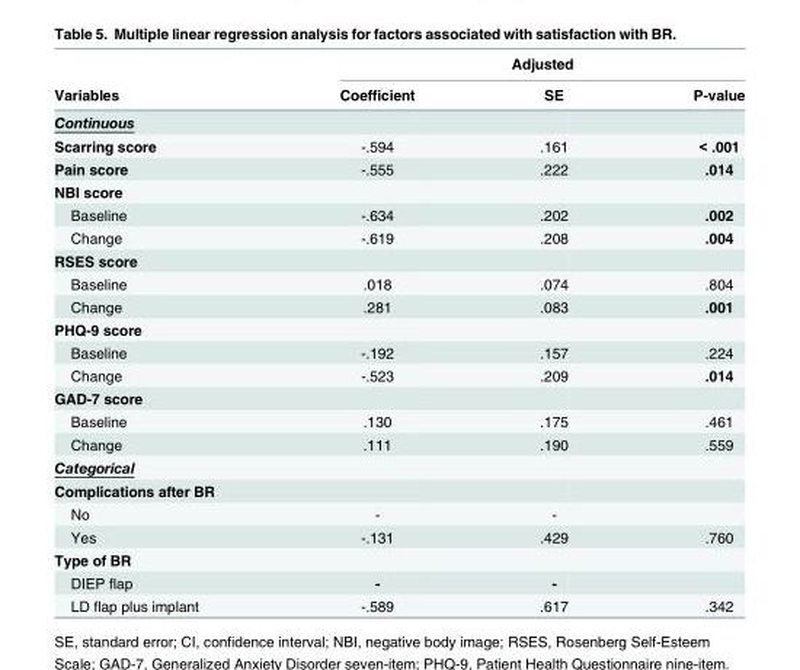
<table><thead><tr><td rowspan="2">Variables</td><td colspan="3">Adjusted</td></tr><tr><td>Coefficient</td><td>SE</td><td>P-value</td></tr></thead><tbody><tr><td colspan="4">Continuous</td></tr><tr><td>Scarring score</td><td>-.594</td><td>.161</td><td>&lt; .001</td></tr><tr><td>Pain score</td><td>-.555</td><td>.222</td><td>.014</td></tr><tr><td colspan="4">NBI score</td></tr><tr><td>Baseline</td><td>-.634</td><td>.202</td><td>.002</td></tr><tr><td>Change</td><td>-.619</td><td>.208</td><td>.004</td></tr><tr><td colspan="4">RSES score</td></tr><tr><td>Baseline</td><td>.018</td><td>.074</td><td>.804</td></tr><tr><td>Change</td><td>.281</td><td>.083</td><td>.001</td></tr><tr><td colspan="4">PHQ-9 score</td></tr><tr><td>Baseline</td><td>-.192</td><td>.157</td><td>.224</td></tr><tr><td>Change</td><td>-.523</td><td>.209</td><td>.014</td></tr><tr><td colspan="4">GAD-7 score</td></tr><tr><td>Baseline</td><td>.130</td><td>.175</td><td>.461</td></tr><tr><td>Change</td><td>.111</td><td>.190</td><td>.559</td></tr><tr><td colspan="4">Categorical</td></tr><tr><td colspan="4">Complications after BR</td></tr><tr><td>No</td><td>-</td><td>-</td><td></td></tr><tr><td>Yes</td><td>-.131</td><td>.429</td><td>.760</td></tr><tr><td colspan="4">Type of BR</td></tr><tr><td>DIEP flap</td><td>-</td><td>-</td><td></td></tr><tr><td>LD flap plus implant</td><td>-.589</td><td>.617</td><td>.342</td></tr></tbody></table>